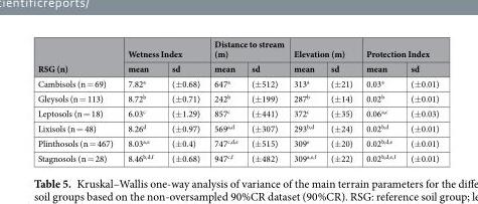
<table><thead><tr><td rowspan="2">RSG (n)</td><td colspan="2">Wetness Index</td><td colspan="2">Distance to stream (m)</td><td colspan="2">Elevation (m)</td><td colspan="2">Protection Index</td></tr><tr><td>mean</td><td>sd</td><td>mean</td><td>sd</td><td>mean</td><td>sd</td><td>mean</td><td>sd</td></tr></thead><tbody><tr><td>Cambisols (n = 69)</td><td>7.82<sup>a</sup></td><td>(±0.68)</td><td>647<sup>a</sup></td><td>(±512)</td><td>313<sup>a</sup></td><td>(±21)</td><td>0.03<sup>a</sup></td><td>(±0.01)</td></tr><tr><td>Gleysols (n = 113)</td><td>8.72<sup>b</sup></td><td>(±0.71)</td><td>242<sup>b</sup></td><td>(±199)</td><td>287<sup>b</sup></td><td>(±14)</td><td>0.02<sup>b</sup></td><td>(±0.01)</td></tr><tr><td>Leptosols (n = 18)</td><td>6.03<sup>c</sup></td><td>(±1.29)</td><td>857<sup>c</sup></td><td>(±441)</td><td>372<sup>c</sup></td><td>(±35)</td><td>0.06<sup>a,c</sup></td><td>(±0.03)</td></tr><tr><td>Lixisols (n = 48)</td><td>8.26<sup>d</sup></td><td>(±0.97)</td><td>569<sup>a,d</sup></td><td>(±307)</td><td>293<sup>b,d</sup></td><td>(±24)</td><td>0.02<sup>b,d</sup></td><td>(±0.01)</td></tr><tr><td>Plinthosols (n = 467)</td><td>8.03<sup>a,e</sup></td><td>(±0.4)</td><td>747<sup>c,d,e</sup></td><td>(±515)</td><td>309<sup>e</sup></td><td>(±20)</td><td>0.02<sup>b,d,e</sup></td><td>(±0.01)</td></tr><tr><td>Stagnosols (n = 28)</td><td>8.46<sup>b,d,f</sup></td><td>(±0.68)</td><td>947<sup>c,f</sup></td><td>(±482)</td><td>309<sup>a,e,f</sup></td><td>(±22)</td><td>0.02<sup>b,d,e,f</sup></td><td>(±0.01)</td></tr></tbody></table>